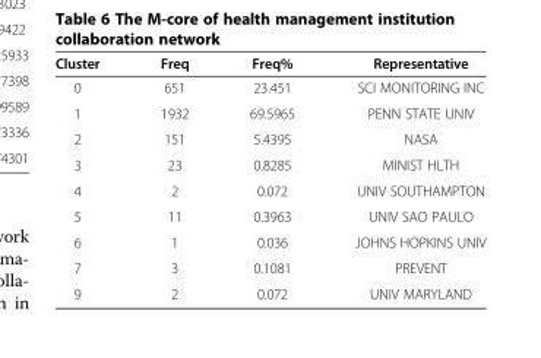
<table><thead><tr><td>Cluster</td><td>Freq</td><td>Freq%</td><td>Representative</td></tr></thead><tbody><tr><td>0</td><td>651</td><td>23.451</td><td>SCI MONITORING INC</td></tr><tr><td>1</td><td>1932</td><td>69.5965</td><td>PENN STATE UNIV</td></tr><tr><td>2</td><td>151</td><td>5.4395</td><td>NASA</td></tr><tr><td>3</td><td>23</td><td>0.8285</td><td>MINIST HLTH</td></tr><tr><td>4</td><td>2</td><td>0.072</td><td>UNIV SOUTHAMPTON</td></tr><tr><td>5</td><td>11</td><td>0.3963</td><td>UNIV SAO PAULO</td></tr><tr><td>6</td><td>1</td><td>0.036</td><td>JOHNS HOPKINS UNIV</td></tr><tr><td>7</td><td>3</td><td>0.1081</td><td>PREVENT</td></tr><tr><td>9</td><td>2</td><td>0.072</td><td>UNIV MARYLAND</td></tr></tbody></table>